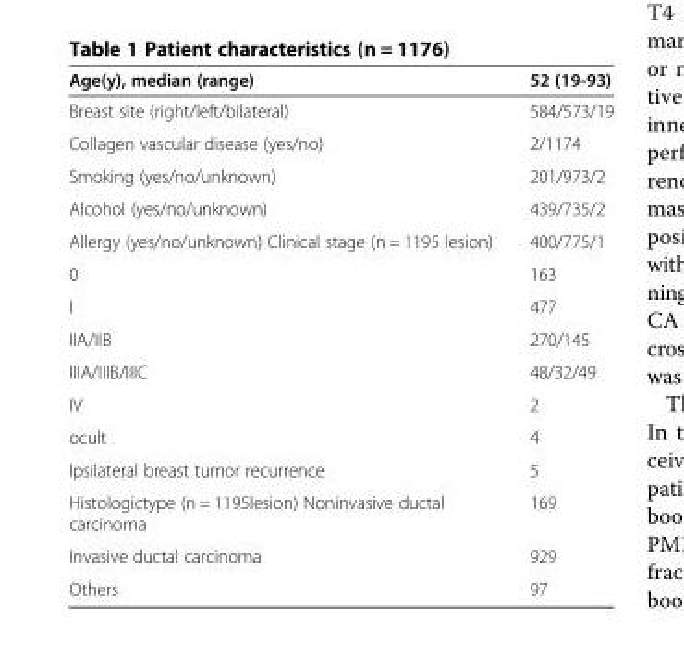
<table><thead><tr><td>Age(y), median (range)</td><td>52 (19-93)</td></tr></thead><tbody><tr><td>Breast site (right/left/bilateral)</td><td>584/573/19</td></tr><tr><td>Collagen vascular disease (yes/no)</td><td>2/1174</td></tr><tr><td>Smoking (yes/no/unknown)</td><td>201/973/2</td></tr><tr><td>Alcohol (yes/no/unknown)</td><td>439/735/2</td></tr><tr><td>Allergy (yes/no/unknown) Clinical stage (n = 1195 lesion)</td><td>400/775/1</td></tr><tr><td>0</td><td>163</td></tr><tr><td>I</td><td>477</td></tr><tr><td>IIA/IIB</td><td>270/145</td></tr><tr><td>IIIA/IIIB/IIIC</td><td>48/32/49</td></tr><tr><td>IV</td><td>2</td></tr><tr><td>ocult</td><td>4</td></tr><tr><td>Ipsilateral breast tumor recurrence</td><td>5</td></tr><tr><td>Histologictype (n = 1195lesion) Noninvasive ductal carcinoma</td><td>169</td></tr><tr><td>Invasive ductal carcinoma</td><td>929</td></tr><tr><td>Others</td><td>97</td></tr></tbody></table>